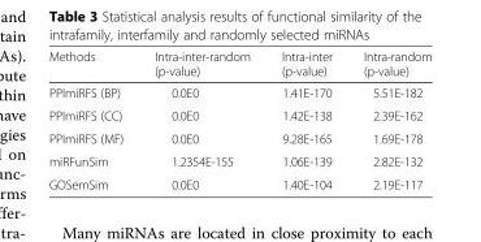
<table><thead><tr><td>Methods</td><td>Intra-inter-random (p-value)</td><td>Intra-inter (p-value)</td><td>Intra-random (p-value)</td></tr></thead><tbody><tr><td>PPImiRFS (BP)</td><td>0.0E0</td><td>1.41E-170</td><td>5.51E-182</td></tr><tr><td>PPImiRFS (CC)</td><td>0.0E0</td><td>1.42E-138</td><td>2.39E-162</td></tr><tr><td>PPImiRFS (MF)</td><td>0.0E0</td><td>9.28E-165</td><td>1.69E-178</td></tr><tr><td>miRFunSim</td><td>1.2354E-155</td><td>1.06E-139</td><td>2.82E-132</td></tr><tr><td>GOSemSim</td><td>0.0E0</td><td>1.40E-104</td><td>2.19E-117</td></tr></tbody></table>